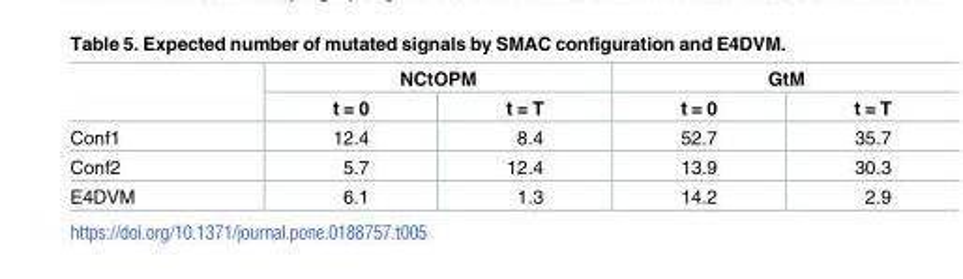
<table><thead><tr><td rowspan="2"></td><td colspan="2">NCtOPM</td><td colspan="2">GtM</td></tr><tr><td>t = 0</td><td>t = T</td><td>t = 0</td><td>t = T</td></tr></thead><tbody><tr><td>Conf1</td><td>12.4</td><td>8.4</td><td>52.7</td><td>35.7</td></tr><tr><td>Conf2</td><td>5.7</td><td>12.4</td><td>13.9</td><td>30.3</td></tr><tr><td>E4DVM</td><td>6.1</td><td>1.3</td><td>14.2</td><td>2.9</td></tr></tbody></table>